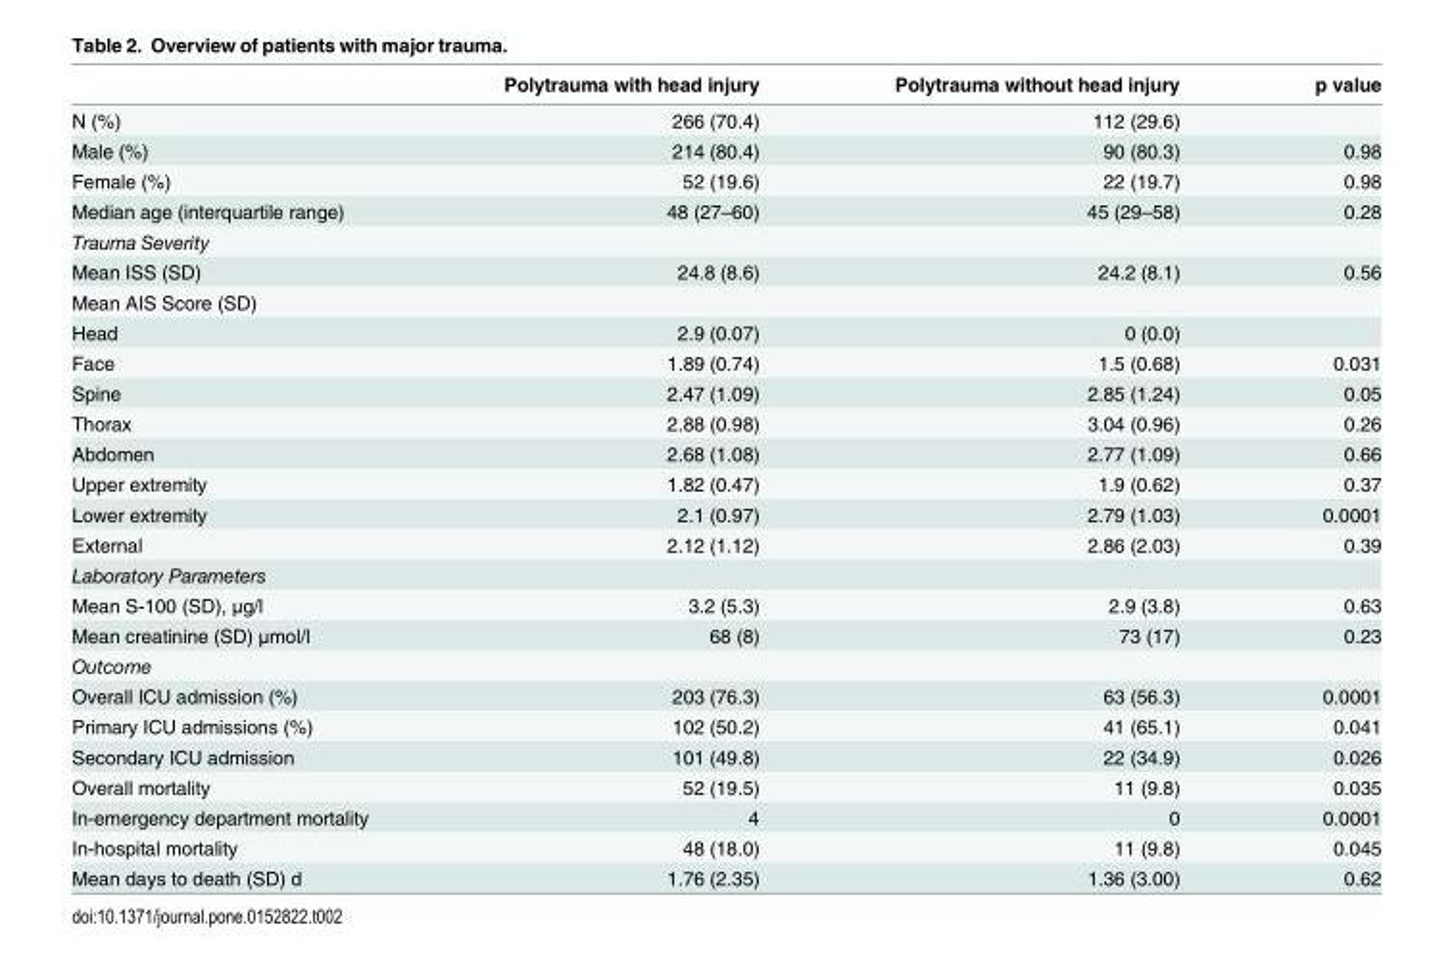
<table><thead><tr><td></td><td>Polytrauma with head injury</td><td>Polytrauma without head injury</td><td>p value</td></tr></thead><tbody><tr><td>N (%)</td><td>266 (70.4)</td><td>112 (29.6)</td><td></td></tr><tr><td>Male (%)</td><td>214 (80.4)</td><td>90 (80.3)</td><td>0.98</td></tr><tr><td>Female (%)</td><td>52 (19.6)</td><td>22 (19.7)</td><td>0.98</td></tr><tr><td>Median age (interquartile range)</td><td>48 (27–60)</td><td>45 (29–58)</td><td>0.28</td></tr><tr><td colspan="4">Trauma Severity</td></tr><tr><td>Mean ISS (SD)</td><td>24.8 (8.6)</td><td>24.2 (8.1)</td><td>0.56</td></tr><tr><td colspan="4">Mean AIS Score (SD)</td></tr><tr><td>Head</td><td>2.9 (0.07)</td><td>0 (0.0)</td><td></td></tr><tr><td>Face</td><td>1.89 (0.74)</td><td>1.5 (0.68)</td><td>0.031</td></tr><tr><td>Spine</td><td>2.47 (1.09)</td><td>2.85 (1.24)</td><td>0.05</td></tr><tr><td>Thorax</td><td>2.88 (0.98)</td><td>3.04 (0.96)</td><td>0.26</td></tr><tr><td>Abdomen</td><td>2.68 (1.08)</td><td>2.77 (1.09)</td><td>0.66</td></tr><tr><td>Upper extremity</td><td>1.82 (0.47)</td><td>1.9 (0.62)</td><td>0.37</td></tr><tr><td>Lower extremity</td><td>2.1 (0.97)</td><td>2.79 (1.03)</td><td>0.0001</td></tr><tr><td>External</td><td>2.12 (1.12)</td><td>2.86 (2.03)</td><td>0.39</td></tr><tr><td colspan="4">Laboratory Parameters</td></tr><tr><td>Mean S-100 (SD), μg/l</td><td>3.2 (5.3)</td><td>2.9 (3.8)</td><td>0.63</td></tr><tr><td>Mean creatinine (SD) μmol/l</td><td>68 (8)</td><td>73 (17)</td><td>0.23</td></tr><tr><td colspan="4">Outcome</td></tr><tr><td>Overall ICU admission (%)</td><td>203 (76.3)</td><td>63 (56.3)</td><td>0.0001</td></tr><tr><td>Primary ICU admissions (%)</td><td>102 (50.2)</td><td>41 (65.1)</td><td>0.041</td></tr><tr><td>Secondary ICU admission</td><td>101 (49.8)</td><td>22 (34.9)</td><td>0.026</td></tr><tr><td>Overall mortality</td><td>52 (19.5)</td><td>11 (9.8)</td><td>0.035</td></tr><tr><td>In-emergency department mortality</td><td>4</td><td>0</td><td>0.0001</td></tr><tr><td>In-hospital mortality</td><td>48 (18.0)</td><td>11 (9.8)</td><td>0.045</td></tr><tr><td>Mean days to death (SD) d</td><td>1.76 (2.35)</td><td>1.36 (3.00)</td><td>0.62</td></tr></tbody></table>